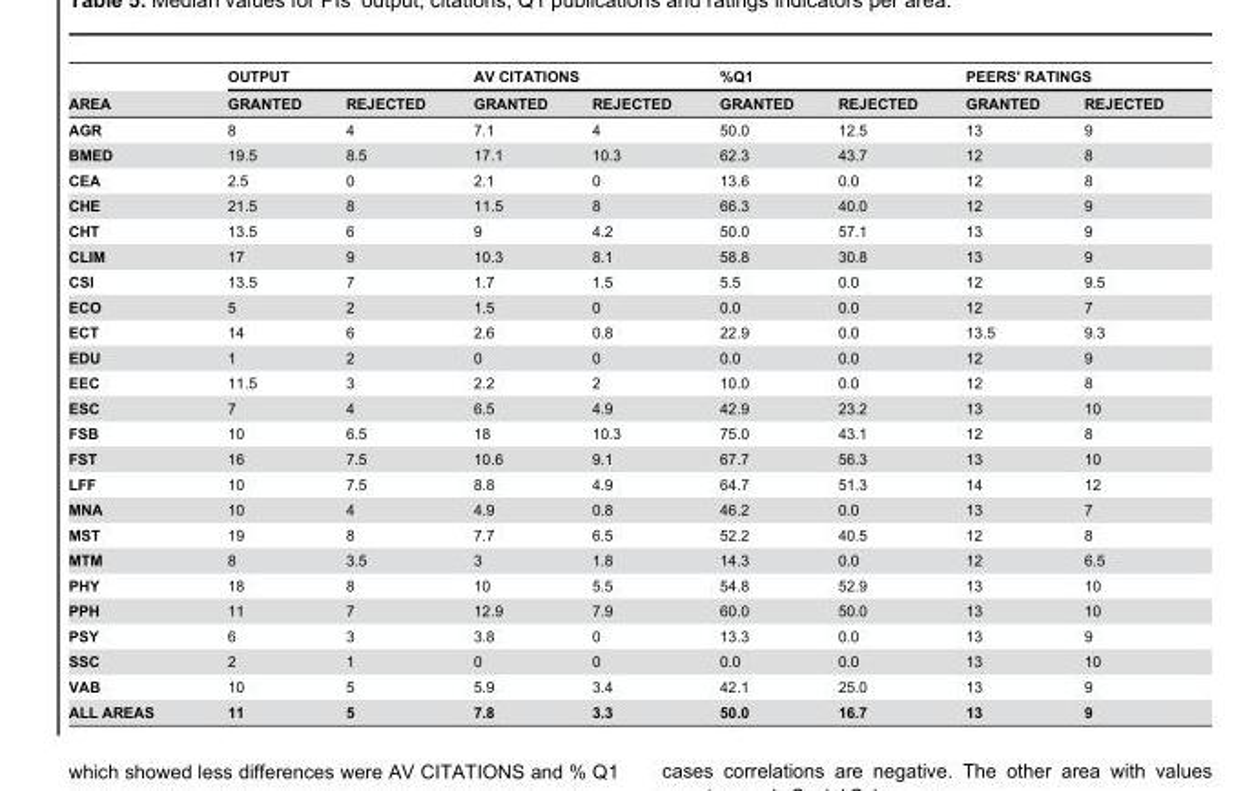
<table><thead><tr><td rowspan="2">AREA</td><td colspan="2">OUTPUT</td><td colspan="2">AV CITATIONS</td><td colspan="2">%Q1</td><td colspan="2">PEERS&#x27; RATINGS</td></tr><tr><td>GRANTED</td><td>REJECTED</td><td>GRANTED</td><td>REJECTED</td><td>GRANTED</td><td>REJECTED</td><td>GRANTED</td><td>REJECTED</td></tr></thead><tbody><tr><td>AGR</td><td>8</td><td>4</td><td>7.1</td><td>4</td><td>50.0</td><td>12.5</td><td>13</td><td>9</td></tr><tr><td>BMED</td><td>19.5</td><td>8.5</td><td>17.1</td><td>10.3</td><td>62.3</td><td>43.7</td><td>12</td><td>8</td></tr><tr><td>CEA</td><td>2.5</td><td>0</td><td>2.1</td><td>0</td><td>13.6</td><td>0.0</td><td>12</td><td>8</td></tr><tr><td>CHE</td><td>21.5</td><td>8</td><td>11.5</td><td>8</td><td>66.3</td><td>40.0</td><td>12</td><td>9</td></tr><tr><td>CHT</td><td>13.5</td><td>6</td><td>9</td><td>4.2</td><td>50.0</td><td>57.1</td><td>13</td><td>9</td></tr><tr><td>CLIM</td><td>17</td><td>9</td><td>10.3</td><td>8.1</td><td>58.8</td><td>30.8</td><td>13</td><td>9</td></tr><tr><td>CSI</td><td>13.5</td><td>7</td><td>1.7</td><td>1.5</td><td>5.5</td><td>0.0</td><td>12</td><td>9.5</td></tr><tr><td>ECO</td><td>5</td><td>2</td><td>1.5</td><td>0</td><td>0.0</td><td>0.0</td><td>12</td><td>7</td></tr><tr><td>ECT</td><td>14</td><td>6</td><td>2.6</td><td>0.8</td><td>22.9</td><td>0.0</td><td>13.5</td><td>9.3</td></tr><tr><td>EDU</td><td>1</td><td>2</td><td>0</td><td>0</td><td>0.0</td><td>0.0</td><td>12</td><td>9</td></tr><tr><td>EEC</td><td>11.5</td><td>3</td><td>2.2</td><td>2</td><td>10.0</td><td>0.0</td><td>12</td><td>8</td></tr><tr><td>ESC</td><td>7</td><td>4</td><td>6.5</td><td>4.9</td><td>42.9</td><td>23.2</td><td>13</td><td>10</td></tr><tr><td>FSB</td><td>10</td><td>6.5</td><td>18</td><td>10.3</td><td>75.0</td><td>43.1</td><td>12</td><td>8</td></tr><tr><td>FST</td><td>16</td><td>7.5</td><td>10.6</td><td>9.1</td><td>67.7</td><td>56.3</td><td>13</td><td>10</td></tr><tr><td>LFF</td><td>10</td><td>7.5</td><td>8.8</td><td>4.9</td><td>64.7</td><td>51.3</td><td>14</td><td>12</td></tr><tr><td>MNA</td><td>10</td><td>4</td><td>4.9</td><td>0.8</td><td>46.2</td><td>0.0</td><td>13</td><td>7</td></tr><tr><td>MST</td><td>19</td><td>8</td><td>7.7</td><td>6.5</td><td>52.2</td><td>40.5</td><td>12</td><td>8</td></tr><tr><td>MTM</td><td>8</td><td>3.5</td><td>3</td><td>1.8</td><td>14.3</td><td>0.0</td><td>12</td><td>6.5</td></tr><tr><td>PHY</td><td>18</td><td>8</td><td>10</td><td>5.5</td><td>54.8</td><td>52.9</td><td>13</td><td>10</td></tr><tr><td>PPH</td><td>11</td><td>7</td><td>12.9</td><td>7.9</td><td>60.0</td><td>50.0</td><td>13</td><td>10</td></tr><tr><td>PSY</td><td>6</td><td>3</td><td>3.8</td><td>0</td><td>13.3</td><td>0.0</td><td>13</td><td>9</td></tr><tr><td>SSC</td><td>2</td><td>1</td><td>0</td><td>0</td><td>0.0</td><td>0.0</td><td>13</td><td>10</td></tr><tr><td>VAB</td><td>10</td><td>5</td><td>5.9</td><td>3.4</td><td>42.1</td><td>25.0</td><td>13</td><td>9</td></tr><tr><td>ALL AREAS</td><td>11</td><td>5</td><td>7.8</td><td>3.3</td><td>50.0</td><td>16.7</td><td>13</td><td>9</td></tr></tbody></table>